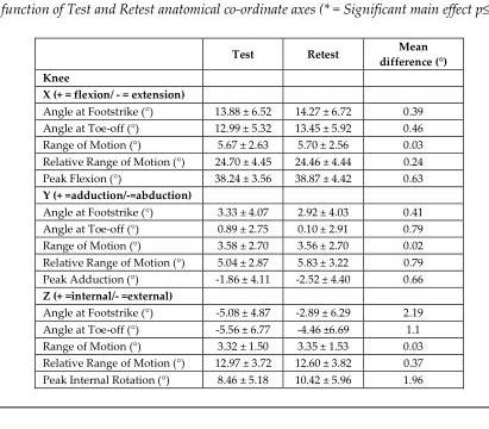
<table><thead><tr><td></td><td>Test</td><td>Retest</td><td>Mean difference (°)</td></tr></thead><tbody><tr><td colspan="4">Knee</td></tr><tr><td colspan="4">X (+ = flexion/ - = extension)</td></tr><tr><td>Angle at Footstrike (°)</td><td>13.88 ± 6.52</td><td>14.27 ± 6.72</td><td>0.39</td></tr><tr><td>Angle at Toe-off (°)</td><td>12.99 ± 5.32</td><td>13.45 ± 5.92</td><td>0.46</td></tr><tr><td>Range of Motion (°)</td><td>5.67 ± 2.63</td><td>5.70 ± 2.56</td><td>0.03</td></tr><tr><td>Relative Range of Motion (°)</td><td>24.70 ± 4.45</td><td>24.46 ± 4.44</td><td>0.24</td></tr><tr><td>Peak Flexion (°)</td><td>38.24 ± 3.56</td><td>38.87 ± 4.42</td><td>0.63</td></tr><tr><td colspan="4">Y (+ =adduction/-=abduction)</td></tr><tr><td>Angle at Footstrike (°)</td><td>3.33 ± 4.07</td><td>2.92 ± 4.03</td><td>0.41</td></tr><tr><td>Angle at Toe-off (°)</td><td>0.89 ± 2.75</td><td>0.10 ± 2.91</td><td>0.79</td></tr><tr><td>Range of Motion (°)</td><td>3.58 ± 2.70</td><td>3.56 ± 2.70</td><td>0.02</td></tr><tr><td>Relative Range of Motion (°)</td><td>5.04 ± 2.87</td><td>5.83 ± 3.22</td><td>0.79</td></tr><tr><td>Peak Adduction (°)</td><td>-1.86 ± 4.11</td><td>-2.52 ± 4.40</td><td>0.66</td></tr><tr><td colspan="4">Z (+ =internal/- =external)</td></tr><tr><td>Angle at Footstrike (°)</td><td>-5.08 ± 4.87</td><td>-2.89 ± 6.29</td><td>2.19</td></tr><tr><td>Angle at Toe-off (°)</td><td>-5.56 ± 6.77</td><td>-4.46 ±6.69</td><td>1.1</td></tr><tr><td>Range of Motion (°)</td><td>3.32 ± 1.50</td><td>3.35 ± 1.53</td><td>0.03</td></tr><tr><td>Relative Range of Motion (°)</td><td>12.97 ± 3.72</td><td>12.60 ± 3.82</td><td>0.37</td></tr><tr><td>Peak Internal Rotation (°)</td><td>8.46 ± 5.18</td><td>10.42 ± 5.96</td><td>1.96</td></tr></tbody></table>